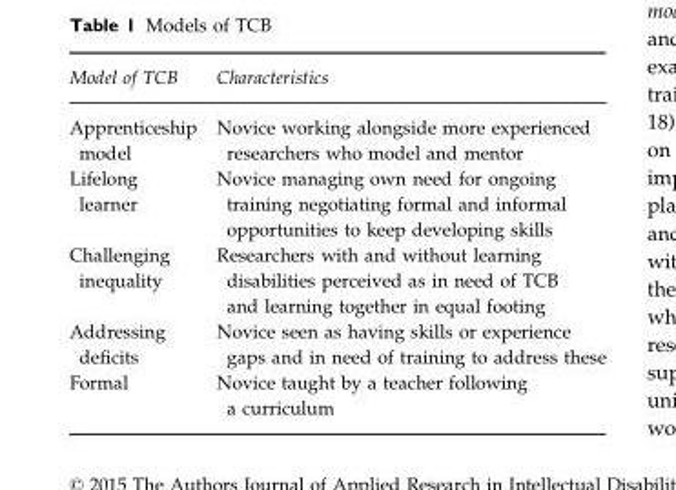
<table><thead><tr><td>Model of TCB</td><td>Characteristics</td></tr></thead><tbody><tr><td>Apprenticeship model</td><td>Novice working alongside more experienced researchers who model and mentor</td></tr><tr><td>Lifelong learner</td><td>Novice managing own need for ongoing training negotiating formal and informal opportunities to keep developing skills</td></tr><tr><td>Challenging inequality</td><td>Researchers with and without learning disabilities perceived as in need of TCB and learning together in equal footing</td></tr><tr><td>Addressing deficits</td><td>Novice seen as having skills or experience gaps and in need of training to address these</td></tr><tr><td>Formal</td><td>Novice taught by a teacher following a curriculum</td></tr></tbody></table>